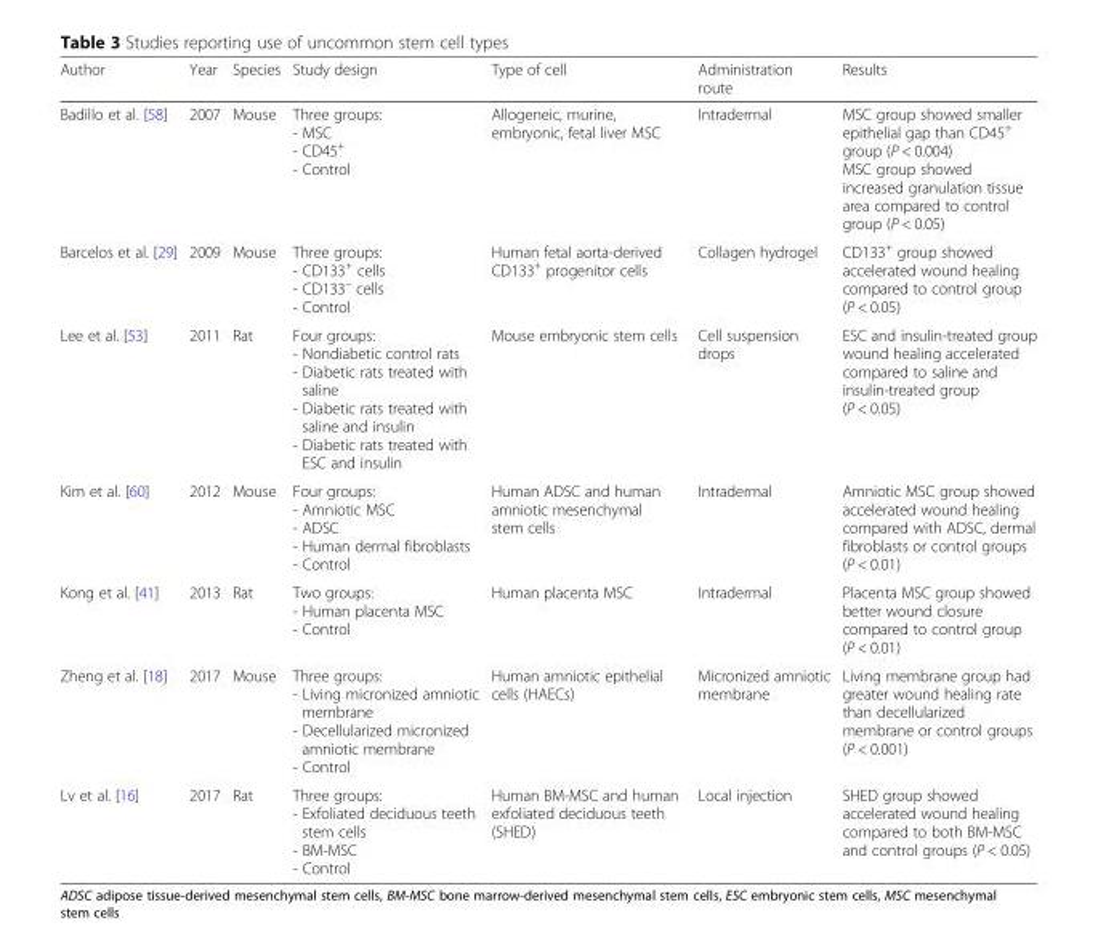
<table><thead><tr><td>Author</td><td>Year</td><td>Species</td><td>Study design</td><td>Type of cell</td><td>Administration route</td><td>Results</td></tr></thead><tbody><tr><td>Badillo et al. [58]</td><td>2007</td><td>Mouse</td><td>Three groups: - MSC - CD45<sup>+</sup> - Control</td><td>Allogeneic, murine, embryonic, fetal liver MSC</td><td>Intradermal</td><td>MSC group showed smaller epithelial gap than CD45<sup>+</sup> group (P &lt; 0.004) MSC group showed increased granulation tissue area compared to control group (P &lt; 0.05)</td></tr><tr><td>Barcelos et al. [29]</td><td>2009</td><td>Mouse</td><td>Three groups: - CD133<sup>+</sup> cells - CD133<sup>–</sup> cells - Control</td><td>Human fetal aorta-derived CD133<sup>+</sup> progenitor cells</td><td>Collagen hydrogel</td><td>CD133<sup>+</sup> group showed accelerated wound healing compared to control group (P &lt; 0.05)</td></tr><tr><td>Lee et al. [53]</td><td>2011</td><td>Rat</td><td>Four groups: - Nondiabetic control rats - Diabetic rats treated with saline - Diabetic rats treated with saline and insulin - Diabetic rats treated with ESC and insulin</td><td>Mouse embryonic stem cells</td><td>Cell suspension drops</td><td>ESC and insulin-treated group wound healing accelerated compared to saline and insulin-treated group (P &lt; 0.05)</td></tr><tr><td>Kim et al. [60]</td><td>2012</td><td>Mouse</td><td>Four groups: - Amniotic MSC - ADSC - Human dermal fibroblasts - Control</td><td>Human ADSC and human amniotic mesenchymal stem cells</td><td>Intradermal</td><td>Amniotic MSC group showed accelerated wound healing compared with ADSC, dermal fibroblasts or control groups (P &lt; 0.01)</td></tr><tr><td>Kong et al. [41]</td><td>2013</td><td>Rat</td><td>Two groups: - Human placenta MSC - Control</td><td>Human placenta MSC</td><td>Intradermal</td><td>Placenta MSC group showed better wound closure compared to control group (P &lt; 0.01)</td></tr><tr><td>Zheng et al. [18]</td><td>2017</td><td>Mouse</td><td>Three groups: - Living micronized amniotic membrane - Decellularized micronized amniotic membrane - Control</td><td>Human amniotic epithelial cells (HAECs)</td><td>Micronized amniotic membrane</td><td>Living membrane group had greater wound healing rate than decellularized membrane or control groups (P &lt; 0.001)</td></tr><tr><td>Lv et al. [16]</td><td>2017</td><td>Rat</td><td>Three groups: - Exfoliated deciduous teeth stem cells - BM-MSC - Control</td><td>Human BM-MSC and human exfoliated deciduous teeth (SHED)</td><td>Local injection</td><td>SHED group showed accelerated wound healing compared to both BM-MSC and control groups (P &lt; 0.05)</td></tr></tbody></table>